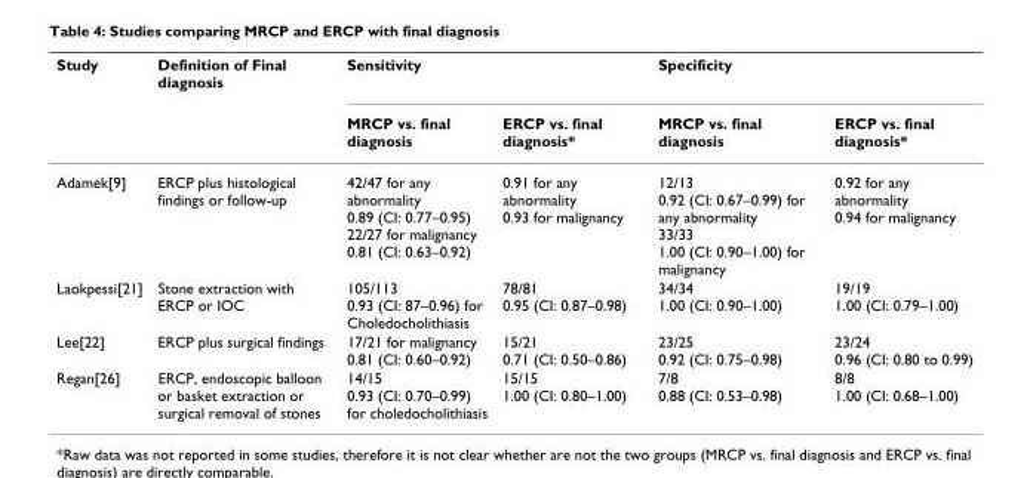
<table><thead><tr><td rowspan="2">Study</td><td rowspan="2">Definition of Final diagnosis</td><td colspan="2">Sensitivity</td><td colspan="2">Specificity</td></tr><tr><td>MRCP vs. final diagnosis</td><td>ERCP vs. final diagnosis*</td><td>MRCP vs. final diagnosis</td><td>ERCP vs. final diagnosis*</td></tr></thead><tbody><tr><td>Adamek[9]</td><td>ERCP plus histological findings or follow-up</td><td>42/47 for any abnormality 0.89 (CI: 0.77–0.95) 22/27 for malignancy 0.81 (CI: 0.63–0.92)</td><td>0.91 for any abnormality 0.93 for malignancy</td><td>12/13 0.92 (CI: 0.67–0.99) for any abnormality 33/33 1.00 (CI: 0.90–1.00) for malignancy</td><td>0.92 for any abnormality 0.94 for malignancy</td></tr><tr><td>Laokpessi[21]</td><td>Stone extraction with ERCP or IOC</td><td>105/113 0.93 (CI: 87–0.96) for Choledocholithiasis</td><td>78/81 0.95 (CI: 0.87–0.98)</td><td>34/34 1.00 (CI: 0.90–1.00)</td><td>19/19 1.00 (CI: 0.79–1.00)</td></tr><tr><td>Lee[22]</td><td>ERCP plus surgical findings</td><td>17/21 for malignancy 0.81 (CI: 0.60–0.92)</td><td>15/21 0.71 (CI: 0.50–0.86)</td><td>23/25 0.92 (CI: 0.75–0.98)</td><td>23/24 0.96 (CI: 0.80 to 0.99)</td></tr><tr><td>Regan[26]</td><td>ERCP, endoscopic balloon or basket extraction or surgical removal of stones</td><td>14/15 0.93 (CI: 0.70–0.99) for choledocholithiasis</td><td>15/15 1.00 (CI: 0.80–1.00)</td><td>7/8 0.88 (CI: 0.53–0.98)</td><td>8/8 1.00 (CI: 0.68–1.00)</td></tr></tbody></table>